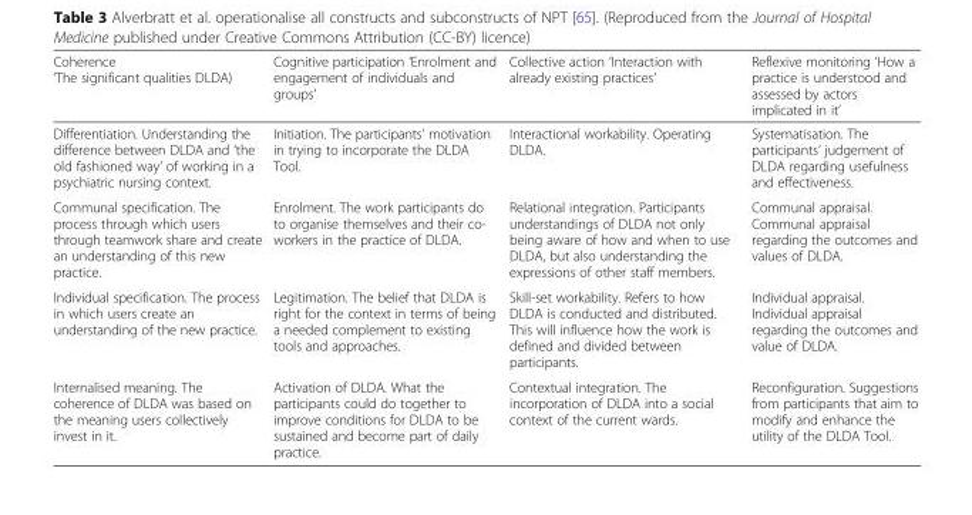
<table><thead><tr><td>Coherence ‘The significant qualities DLDA)</td><td>Cognitive participation ‘Enrolment and engagement of individuals and groups’</td><td>Collective action ‘Interaction with already existing practices’</td><td>Reflexive monitoring ‘How a practice is understood and assessed by actors implicated in it’</td></tr></thead><tbody><tr><td>Differentiation. Understanding the difference between DLDA and ‘the old fashioned way’ of working in a psychiatric nursing context.</td><td>Initiation. The participants’ motivation in trying to incorporate the DLDA Tool.</td><td>Interactional workability. Operating DLDA.</td><td>Systematisation. The participants’ judgement of DLDA regarding usefulness and effectiveness.</td></tr><tr><td>Communal specification. The process through which users through teamwork share and create an understanding of this new practice.</td><td>Enrolment. The work participants do to organise themselves and their co- workers in the practice of DLDA.</td><td>Relational integration. Participants understandings of DLDA not only being aware of how and when to use DLDA, but also understanding the expressions of other staff members.</td><td>Communal appraisal. Communal appraisal regarding the outcomes and values of DLDA.</td></tr><tr><td>Individual specification. The process in which users create an understanding of the new practice.</td><td>Legitimation. The belief that DLDA is right for the context in terms of being a needed complement to existing tools and approaches.</td><td>Skill-set workability. Refers to how DLDA is conducted and distributed. This will influence how the work is defined and divided between participants.</td><td>Individual appraisal. Individual appraisal regarding the outcomes and value of DLDA.</td></tr><tr><td>Internalised meaning. The coherence of DLDA was based on the meaning users collectively invest in it.</td><td>Activation of DLDA. What the participants could do together to improve conditions for DLDA to be sustained and become part of daily practice.</td><td>Contextual integration. The incorporation of DLDA into a social context of the current wards.</td><td>Reconfiguration. Suggestions from participants that aim to modify and enhance the utility of the DLDA Tool.</td></tr></tbody></table>